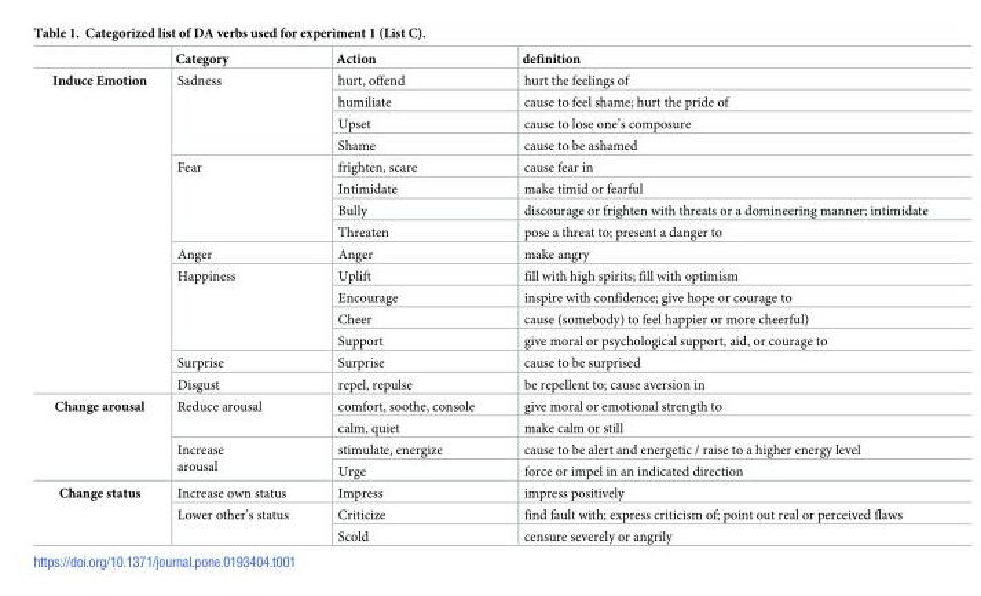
<table><thead><tr><td></td><td>Category</td><td>Action</td><td>definition</td></tr></thead><tbody><tr><td rowspan="15">Induce Emotion</td><td rowspan="4">Sadness</td><td>hurt, offend</td><td>hurt the feelings of</td></tr><tr><td>humiliate</td><td>cause to feel shame; hurt the pride of</td></tr><tr><td>Upset</td><td>cause to lose one’s composure</td></tr><tr><td>Shame</td><td>cause to be ashamed</td></tr><tr><td rowspan="4">Fear</td><td>frighten, scare</td><td>cause fear in</td></tr><tr><td>Intimidate</td><td>make timid or fearful</td></tr><tr><td>Bully</td><td>discourage or frighten with threats or a domineering manner; intimidate</td></tr><tr><td>Threaten</td><td>pose a threat to; present a danger to</td></tr><tr><td>Anger</td><td>Anger</td><td>make angry</td></tr><tr><td rowspan="4">Happiness</td><td>Uplift</td><td>fill with high spirits; fill with optimism</td></tr><tr><td>Encourage</td><td>inspire with confidence; give hope or courage to</td></tr><tr><td>Cheer</td><td>cause (somebody) to feel happier or more cheerful)</td></tr><tr><td>Support</td><td>give moral or psychological support, aid, or courage to</td></tr><tr><td>Surprise</td><td>Surprise</td><td>cause to be surprised</td></tr><tr><td>Disgust</td><td>repel, repulse</td><td>be repellent to; cause aversion in</td></tr><tr><td rowspan="4">Change arousal</td><td rowspan="2">Reduce arousal</td><td>comfort, soothe, console</td><td>give moral or emotional strength to</td></tr><tr><td>calm, quiet</td><td>make calm or still</td></tr><tr><td rowspan="2">Increase arousal</td><td>stimulate, energize</td><td>cause to be alert and energetic / raise to a higher energy level</td></tr><tr><td>Urge</td><td>force or impel in an indicated direction</td></tr><tr><td rowspan="3">Change status</td><td>Increase own status</td><td>Impress</td><td>impress positively</td></tr><tr><td rowspan="2">Lower other’s status</td><td>Criticize</td><td>find fault with; express criticism of; point out real or perceived flaws</td></tr><tr><td>Scold</td><td>censure severely or angrily</td></tr></tbody></table>